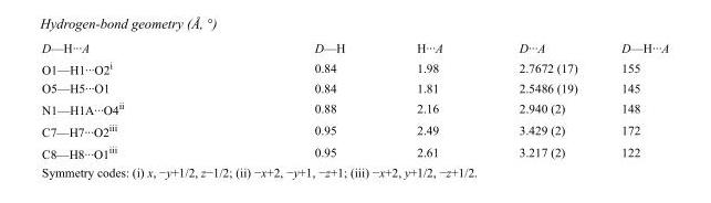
<table><tbody><tr><td>D—H···A</td><td>D—H</td><td>H···A</td><td>D···A</td><td>D—H···A</td></tr><tr><td>O1—H1···O2<sup>i</sup></td><td>0.84</td><td>1.98</td><td>2.7672 (17)</td><td>155</td></tr><tr><td>O5—H5···O1</td><td>0.84</td><td>1.81</td><td>2.5486 (19)</td><td>145</td></tr><tr><td>N1—H1A···O4<sup>ii</sup></td><td>0.88</td><td>2.16</td><td>2.940 (2)</td><td>148</td></tr><tr><td>C7—H7···O2<sup>iii</sup></td><td>0.95</td><td>2.49</td><td>3.429 (2)</td><td>172</td></tr><tr><td>C8—H8···O1<sup>iii</sup></td><td>0.95</td><td>2.61</td><td>3.217 (2)</td><td>122</td></tr></tbody></table>